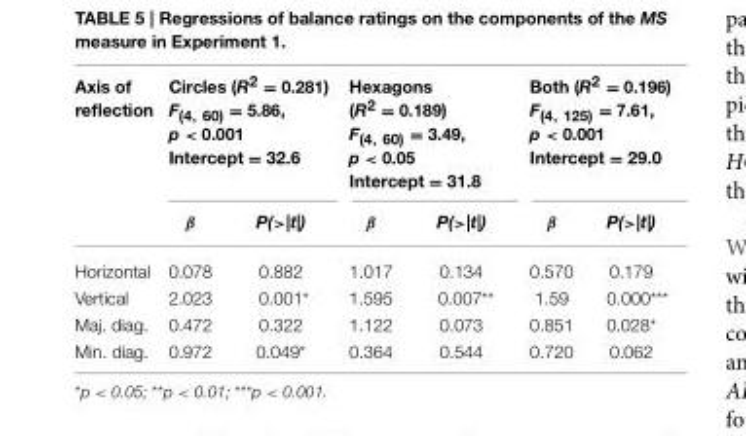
<table><thead><tr><td rowspan="2">Axis of reflection</td><td colspan="2">Circles (R<sup>2</sup> = 0.281) F<sub>(4, 60)</sub> = 5.86, p &lt; 0.001 Intercept = 32.6</td><td colspan="2">Hexagons (R<sup>2</sup> = 0.189) F<sub>(4, 60)</sub> = 3.49, p &lt; 0.05 Intercept = 31.8</td><td colspan="2">Both (R<sup>2</sup> = 0.196) F<sub>(4, 125)</sub> = 7.61, p &lt; 0.001 Intercept = 29.0</td></tr><tr><td>β</td><td>P(&gt;|t|)</td><td>β</td><td>P(&gt;|t|)</td><td>β</td><td>P(&gt;|t|)</td></tr></thead><tbody><tr><td>Horizontal</td><td>0.078</td><td>0.882</td><td>1.017</td><td>0.134</td><td>0.570</td><td>0.179</td></tr><tr><td>Vertical</td><td>2.023</td><td>0.001*</td><td>1.595</td><td>0.007**</td><td>1.59</td><td>0.000***</td></tr><tr><td>Maj. diag.</td><td>0.472</td><td>0.322</td><td>1.122</td><td>0.073</td><td>0.851</td><td>0.028*</td></tr><tr><td>Min. diag.</td><td>0.972</td><td>0.049*</td><td>0.364</td><td>0.544</td><td>0.720</td><td>0.062</td></tr></tbody></table>